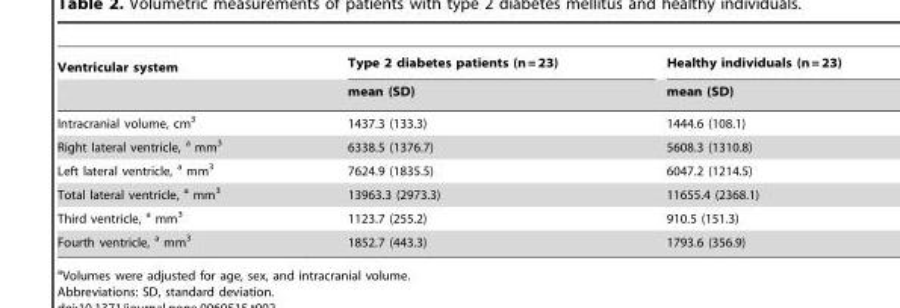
<table><thead><tr><td rowspan="2">Ventricular system</td><td rowspan="2">Type 2 diabetes patients (n = 23) mean (SD)</td><td rowspan="2">Healthy individuals (n = 23) mean (SD)</td></tr><tr></tr></thead><tbody><tr><td>Intracranial volume, cm<sup>3</sup></td><td>1437.3 (133.3)</td><td>1444.6 (108.1)</td></tr><tr><td>Right lateral ventricle, a mm<sup>3</sup></td><td>6338.5 (1376.7)</td><td>5608.3 (1310.8)</td></tr><tr><td>Left lateral ventricle, a mm<sup>3</sup></td><td>7624.9 (1835.5)</td><td>6047.2 (1214.5)</td></tr><tr><td>Total lateral ventricle, a mm<sup>3</sup></td><td>13963.3 (2973.3)</td><td>11655.4 (2368.1)</td></tr><tr><td>Third ventricle, a mm<sup>3</sup></td><td>1123.7 (255.2)</td><td>910.5 (151.3)</td></tr><tr><td>Fourth ventricle, a mm<sup>3</sup></td><td>1852.7 (443.3)</td><td>1793.6 (356.9)</td></tr></tbody></table>